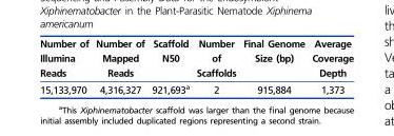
<table><thead><tr><td>Number of Illumina Reads</td><td>Number of Mapped Reads</td><td>Scaffold N50</td><td>Number of Scaffolds</td><td>Final Genome Size (bp)</td><td>Average Coverage Depth</td></tr></thead><tbody><tr><td>15,133,970</td><td>4,316,327</td><td>921,693<sup>a</sup></td><td>2</td><td>915,884</td><td>1,373</td></tr></tbody></table>